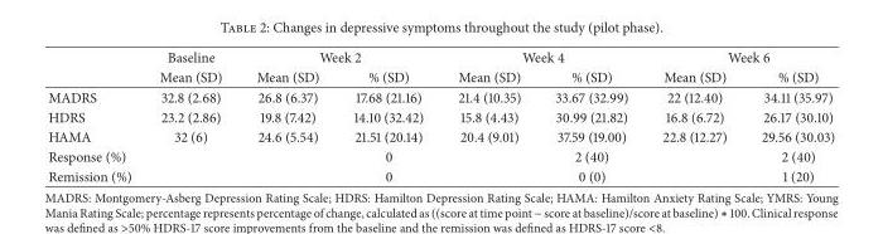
<table><thead><tr><td rowspan="2"></td><td rowspan="2">Baseline Mean (SD)</td><td colspan="2">Week 2</td><td colspan="2">Week 4</td><td colspan="2">Week 6</td></tr><tr><td>Mean (SD)</td><td>% (SD)</td><td>Mean (SD)</td><td>% (SD)</td><td>Mean (SD)</td><td>% (SD)</td></tr></thead><tbody><tr><td>MADRS</td><td>32.8 (2.68)</td><td>26.8 (6.37)</td><td>17.68 (21.16)</td><td>21.4 (10.35)</td><td>33.67 (32.99)</td><td>22 (12.40)</td><td>34.11 (35.97)</td></tr><tr><td>HDRS</td><td>23.2 (2.86)</td><td>19.8 (7.42)</td><td>14.10 (32.42)</td><td>15.8 (4.43)</td><td>30.99 (21.82)</td><td>16.8 (6.72)</td><td>26.17 (30.10)</td></tr><tr><td>HAMA</td><td>32 (6)</td><td>24.6 (5.54)</td><td>21.51 (20.14)</td><td>20.4 (9.01)</td><td>37.59 (19.00)</td><td>22.8 (12.27)</td><td>29.56 (30.03)</td></tr><tr><td>Response (%)</td><td></td><td></td><td>0</td><td></td><td>2 (40)</td><td></td><td>2 (40)</td></tr><tr><td>Remission (%)</td><td></td><td></td><td>0</td><td></td><td>0 (0)</td><td></td><td>1 (20)</td></tr></tbody></table>